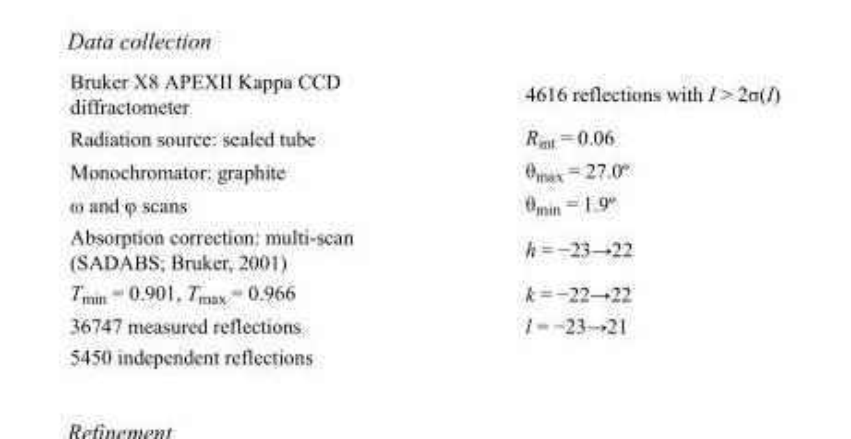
<table><tbody><tr><td>Bruker X8 APEXII Kappa CCD diffractometer</td><td>4616 reflections with I &gt; 2σ(I)</td></tr><tr><td>Radiation source: sealed tube</td><td>R<sub>int</sub> = 0.06</td></tr><tr><td>Monochromator: graphite</td><td>θ<sub>max</sub> = 27.0º</td></tr><tr><td>ω and φ scans</td><td>θ<sub>min</sub> = 1.9º</td></tr><tr><td>Absorption correction: multi-scan (SADABS; Bruker, 2001)</td><td>h = −23→22</td></tr><tr><td>T<sub>min</sub> = 0.901, T<sub>max</sub> = 0.966</td><td>k = −22→22</td></tr><tr><td>36747 measured reflections</td><td>l = −23→21</td></tr><tr><td>5450 independent reflections</td><td></td></tr></tbody></table>